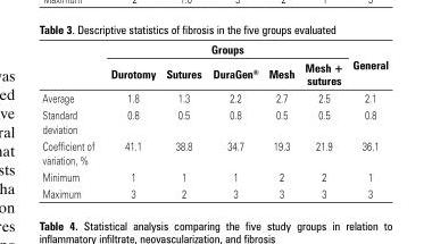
<table><thead><tr><td rowspan="2"></td><td colspan="5">Groups</td><td rowspan="2">General</td></tr><tr><td>Durotomy</td><td>Sutures</td><td>DuraGen<sup>®</sup></td><td>Mesh</td><td>Mesh + sutures</td></tr></thead><tbody><tr><td>Average</td><td>1.8</td><td>1.3</td><td>2.2</td><td>2.7</td><td>2.5</td><td>2.1</td></tr><tr><td>Standard deviation</td><td>0.8</td><td>0.5</td><td>0.8</td><td>0.5</td><td>0.5</td><td>0.8</td></tr><tr><td>Coefficient of variation, %</td><td>41.1</td><td>38.8</td><td>34.7</td><td>19.3</td><td>21.9</td><td>36.1</td></tr><tr><td>Minimum</td><td>1</td><td>1</td><td>1</td><td>2</td><td>2</td><td>1</td></tr><tr><td>Maximum</td><td>3</td><td>2</td><td>3</td><td>3</td><td>3</td><td>3</td></tr></tbody></table>